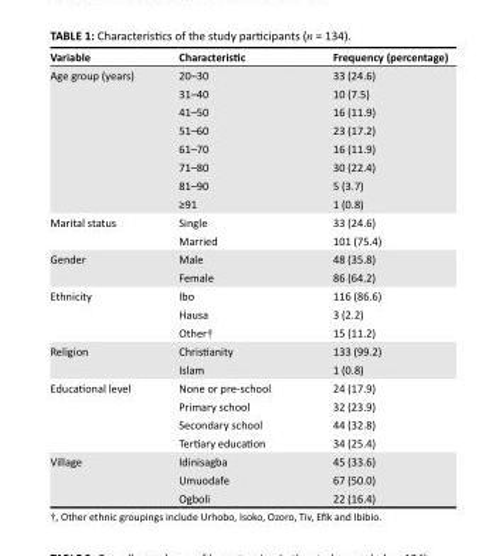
<table><thead><tr><td>Variable</td><td>Characteristic</td><td>Frequency (percentage)</td></tr></thead><tbody><tr><td rowspan="8">Age group (years)</td><td>20–30</td><td>33 (24.6)</td></tr><tr><td>31–40</td><td>10 (7.5)</td></tr><tr><td>41–50</td><td>16 (11.9)</td></tr><tr><td>51–60</td><td>23 (17.2)</td></tr><tr><td>61–70</td><td>16 (11.9)</td></tr><tr><td>71–80</td><td>30 (22.4)</td></tr><tr><td>81–90</td><td>5 (3.7)</td></tr><tr><td>≥91</td><td>1 (0.8)</td></tr><tr><td>Marital status</td><td>Single Married</td><td>33 (24.6) 101 (75.4)</td></tr><tr><td rowspan="2">Gender</td><td>Male</td><td>48 (35.8)</td></tr><tr><td>Female</td><td>86 (64.2)</td></tr><tr><td>Ethnicity</td><td>Ibo Hausa Other†</td><td>116 (86.6) 3 (2.2) 15 (11.2)</td></tr><tr><td rowspan="2">Religion</td><td>Christianity</td><td>133 (99.2)</td></tr><tr><td>Islam</td><td>1 (0.8)</td></tr><tr><td>Educational level</td><td>None or pre-school Primary school Secondary school Tertiary education</td><td>24 (17.9) 32 (23.9) 44 (32.8) 34 (25.4)</td></tr><tr><td rowspan="3">Village</td><td>Idinisagba</td><td>45 (33.6)</td></tr><tr><td>Umuodafe</td><td>67 (50.0)</td></tr><tr><td>Ogboli</td><td>22 (16.4)</td></tr></tbody></table>